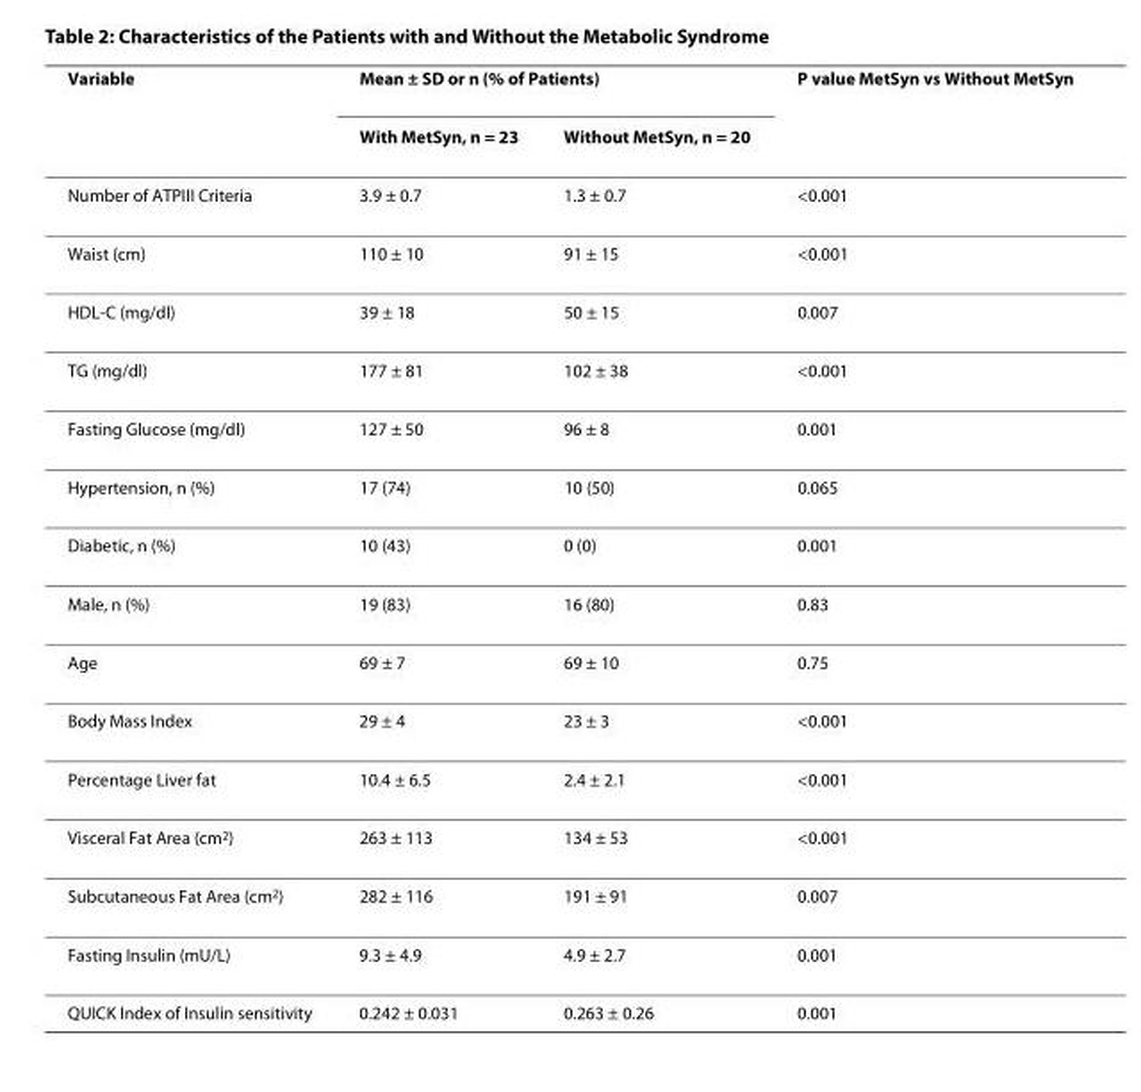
<table><thead><tr><td rowspan="2">Variable</td><td colspan="2">Mean ± SD or n (% of Patients)</td><td rowspan="2">P value MetSyn vs Without MetSyn</td></tr><tr><td>With MetSyn, n = 23</td><td>Without MetSyn, n = 20</td></tr></thead><tbody><tr><td>Number of ATPIII Criteria</td><td>3.9 ± 0.7</td><td>1.3 ± 0.7</td><td>&lt;0.001</td></tr><tr><td>Waist (cm)</td><td>110 ± 10</td><td>91 ± 15</td><td>&lt;0.001</td></tr><tr><td>HDL-C (mg/dl)</td><td>39 ± 18</td><td>50 ± 15</td><td>0.007</td></tr><tr><td>TG (mg/dl)</td><td>177 ± 81</td><td>102 ± 38</td><td>&lt;0.001</td></tr><tr><td>Fasting Glucose (mg/dl)</td><td>127 ± 50</td><td>96 ± 8</td><td>0.001</td></tr><tr><td>Hypertension, n (%)</td><td>17 (74)</td><td>10 (50)</td><td>0.065</td></tr><tr><td>Diabetic, n (%)</td><td>10 (43)</td><td>0 (0)</td><td>0.001</td></tr><tr><td>Male, n (%)</td><td>19 (83)</td><td>16 (80)</td><td>0.83</td></tr><tr><td>Age</td><td>69 ± 7</td><td>69 ± 10</td><td>0.75</td></tr><tr><td>Body Mass Index</td><td>29 ± 4</td><td>23 ± 3</td><td>&lt;0.001</td></tr><tr><td>Percentage Liver fat</td><td>10.4 ± 6.5</td><td>2.4 ± 2.1</td><td>&lt;0.001</td></tr><tr><td>Visceral Fat Area (cm<sup>2</sup>)</td><td>263 ± 113</td><td>134 ± 53</td><td>&lt;0.001</td></tr><tr><td>Subcutaneous Fat Area (cm<sup>2</sup>)</td><td>282 ± 116</td><td>191 ± 91</td><td>0.007</td></tr><tr><td>Fasting Insulin (mU/L)</td><td>9.3 ± 4.9</td><td>4.9 ± 2.7</td><td>0.001</td></tr><tr><td>QUICK Index of Insulin sensitivity</td><td>0.242 ± 0.031</td><td>0.263 ± 0.26</td><td>0.001</td></tr></tbody></table>